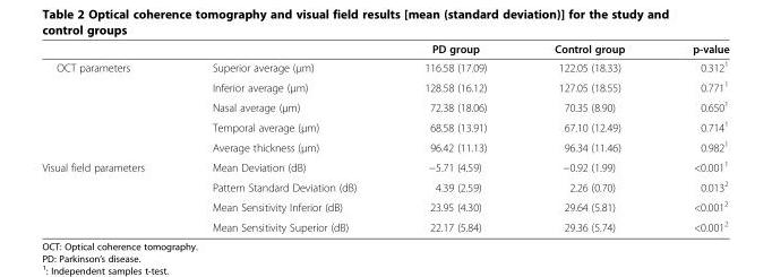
<table><thead><tr><td></td><td></td><td>PD group</td><td>Control group</td><td>p-value</td></tr></thead><tbody><tr><td rowspan="5">OCT parameters</td><td>Superior average (μm)</td><td>116.58 (17.09)</td><td>122.05 (18.33)</td><td>0.312<sup>1</sup></td></tr><tr><td>Inferior average (μm)</td><td>128.58 (16.12)</td><td>127.05 (18.55)</td><td>0.771<sup>1</sup></td></tr><tr><td>Nasal average (μm)</td><td>72.38 (18.06)</td><td>70.35 (8.90)</td><td>0.650<sup>1</sup></td></tr><tr><td>Temporal average (μm)</td><td>68.58 (13.91)</td><td>67.10 (12.49)</td><td>0.714<sup>1</sup></td></tr><tr><td>Average thickness (μm)</td><td>96.42 (11.13)</td><td>96.34 (11.46)</td><td>0.982<sup>1</sup></td></tr><tr><td rowspan="4">Visual field parameters</td><td>Mean Deviation (dB)</td><td>−5.71 (4.59)</td><td>−0.92 (1.99)</td><td>&lt;0.001<sup>1</sup></td></tr><tr><td>Pattern Standard Deviation (dB)</td><td>4.39 (2.59)</td><td>2.26 (0.70)</td><td>0.013<sup>2</sup></td></tr><tr><td>Mean Sensitivity Inferior (dB)</td><td>23.95 (4.30)</td><td>29.64 (5.81)</td><td>&lt;0.001<sup>2</sup></td></tr><tr><td>Mean Sensitivity Superior (dB)</td><td>22.17 (5.84)</td><td>29.36 (5.74)</td><td>&lt;0.001<sup>2</sup></td></tr></tbody></table>